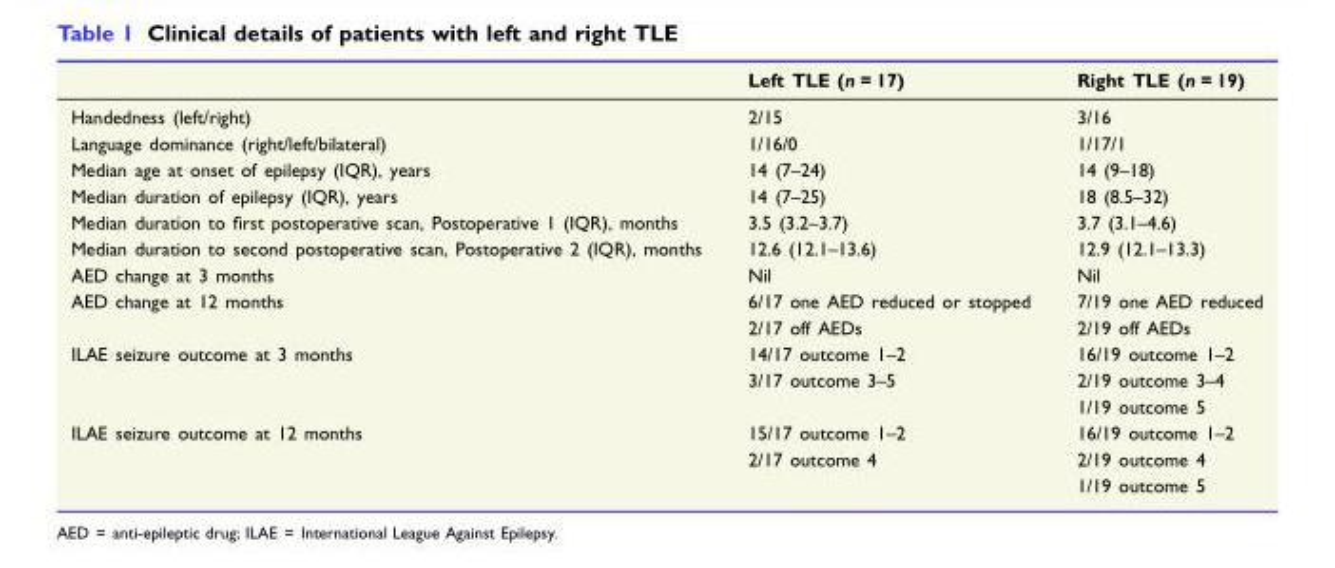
<table><thead><tr><td></td><td>Left TLE (n = 17)</td><td>Right TLE (n = 19)</td></tr></thead><tbody><tr><td>Handedness (left/right)</td><td>2/15</td><td>3/16</td></tr><tr><td>Language dominance (right/left/bilateral)</td><td>1/16/0</td><td>1/17/1</td></tr><tr><td>Median age at onset of epilepsy (IQR), years</td><td>14 (7–24)</td><td>14 (9–18)</td></tr><tr><td>Median duration of epilepsy (IQR), years</td><td>14 (7–25)</td><td>18 (8.5–32)</td></tr><tr><td>Median duration to first postoperative scan, Postoperative 1 (IQR), months</td><td>3.5 (3.2–3.7)</td><td>3.7 (3.1–4.6)</td></tr><tr><td>Median duration to second postoperative scan, Postoperative 2 (IQR), months</td><td>12.6 (12.1–13.6)</td><td>12.9 (12.1–13.3)</td></tr><tr><td>AED change at 3 months</td><td>Nil</td><td>Nil</td></tr><tr><td rowspan="2">AED change at 12 months</td><td>6/17 one AED reduced or stopped</td><td>7/19 one AED reduced</td></tr><tr><td>2/17 off AEDs</td><td>2/19 off AEDs</td></tr><tr><td rowspan="3">ILAE seizure outcome at 3 months</td><td>14/17 outcome 1–2</td><td>16/19 outcome 1–2</td></tr><tr><td>3/17 outcome 3–5</td><td>2/19 outcome 3–4</td></tr><tr><td></td><td>1/19 outcome 5</td></tr><tr><td rowspan="3">ILAE seizure outcome at 12 months</td><td>15/17 outcome 1–2</td><td>16/19 outcome 1–2</td></tr><tr><td>2/17 outcome 4</td><td>2/19 outcome 4</td></tr><tr><td></td><td>1/19 outcome 5</td></tr></tbody></table>